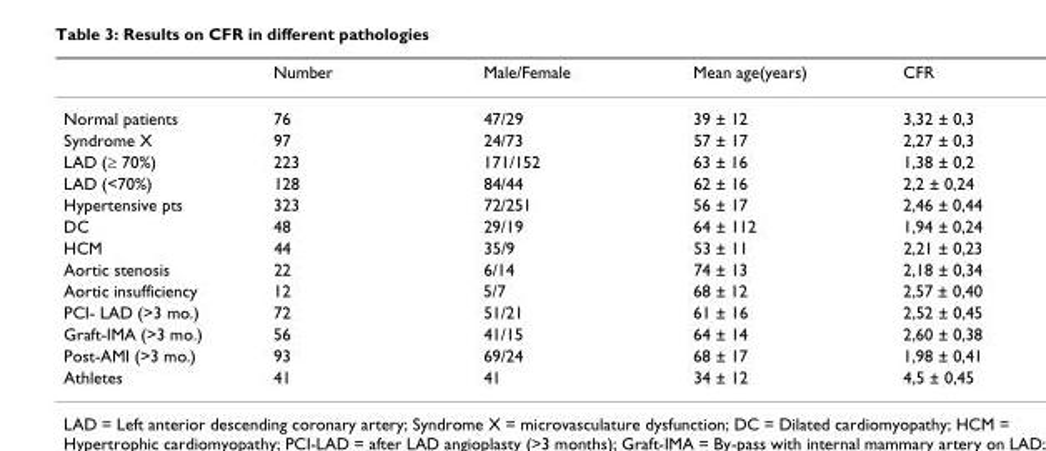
<table><thead><tr><td></td><td>Number</td><td>Male/Female</td><td>Mean age(years)</td><td>CFR</td></tr></thead><tbody><tr><td>Normal patients</td><td>76</td><td>47/29</td><td>39 ± 12</td><td>3,32 ± 0,3</td></tr><tr><td>Syndrome X</td><td>97</td><td>24/73</td><td>57 ± 17</td><td>2,27 ± 0,3</td></tr><tr><td>LAD (≥ 70%)</td><td>223</td><td>171/152</td><td>63 ± 16</td><td>1,38 ± 0,2</td></tr><tr><td>LAD (&lt;70%)</td><td>128</td><td>84/44</td><td>62 ± 16</td><td>2,2 ± 0,24</td></tr><tr><td>Hypertensive pts</td><td>323</td><td>72/251</td><td>56 ± 17</td><td>2,46 ± 0,44</td></tr><tr><td>DC</td><td>48</td><td>29/19</td><td>64 ± 112</td><td>1,94 ± 0,24</td></tr><tr><td>HCM</td><td>44</td><td>35/9</td><td>53 ± 11</td><td>2,21 ± 0,23</td></tr><tr><td>Aortic stenosis</td><td>22</td><td>6/14</td><td>74 ± 13</td><td>2,18 ± 0,34</td></tr><tr><td>Aortic insufficiency</td><td>12</td><td>5/7</td><td>68 ± 12</td><td>2,57 ± 0,40</td></tr><tr><td>PCI- LAD (&gt;3 mo.)</td><td>72</td><td>51/21</td><td>61 ± 16</td><td>2,52 ± 0,45</td></tr><tr><td>Graft-IMA (&gt;3 mo.)</td><td>56</td><td>41/15</td><td>64 ± 14</td><td>2,60 ± 0,38</td></tr><tr><td>Post-AMI (&gt;3 mo.)</td><td>93</td><td>69/24</td><td>68 ± 17</td><td>1,98 ± 0,41</td></tr><tr><td>Athletes</td><td>41</td><td>41</td><td>34 ± 12</td><td>4,5 ± 0,45</td></tr></tbody></table>